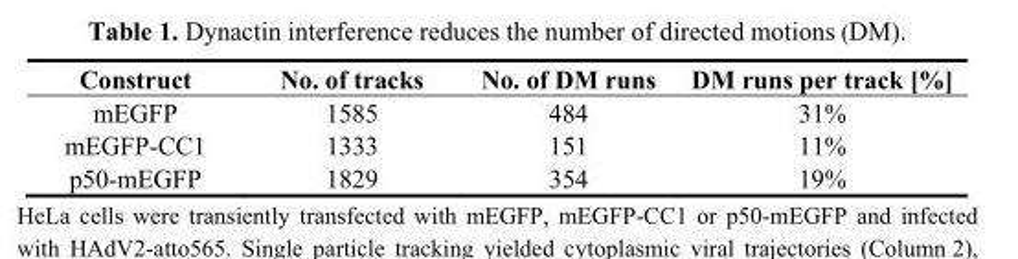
<table><thead><tr><td>Construct</td><td>No. of tracks</td><td>No. of DM runs</td><td>DM runs per track [%]</td></tr></thead><tbody><tr><td>mEGFP</td><td>1585</td><td>484</td><td>31%</td></tr><tr><td>mEGFP-CC1</td><td>1333</td><td>151</td><td>11%</td></tr><tr><td>p50-mEGFP</td><td>1829</td><td>354</td><td>19%</td></tr></tbody></table>